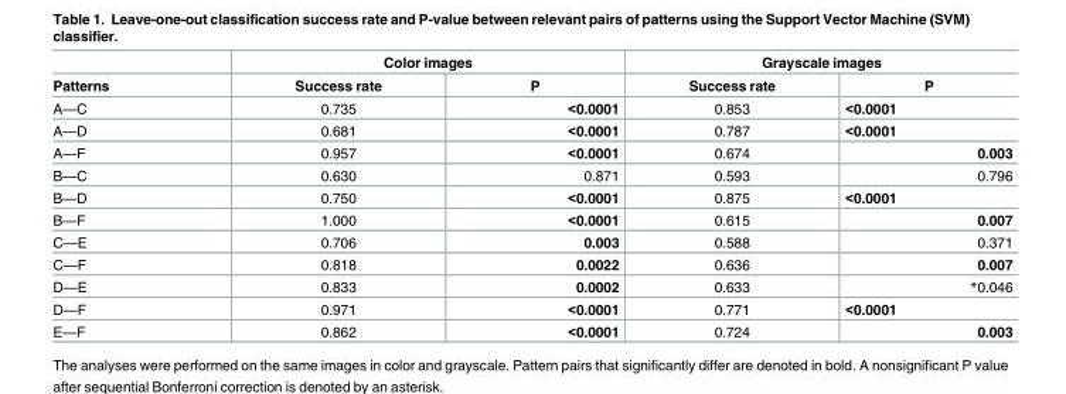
<table><thead><tr><td rowspan="2">Patterns</td><td colspan="2">Color images</td><td colspan="2">Grayscale images</td></tr><tr><td>Success rate</td><td>P</td><td>Success rate</td><td>P</td></tr></thead><tbody><tr><td>A—C</td><td>0.735</td><td>&lt;0.0001</td><td>0.853</td><td>&lt;0.0001</td></tr><tr><td>A—D</td><td>0.681</td><td>&lt;0.0001</td><td>0.787</td><td>&lt;0.0001</td></tr><tr><td>A—F</td><td>0.957</td><td>&lt;0.0001</td><td>0.674</td><td>0.003</td></tr><tr><td>B—C</td><td>0.630</td><td>0.871</td><td>0.593</td><td>0.796</td></tr><tr><td>B—D</td><td>0.750</td><td>&lt;0.0001</td><td>0.875</td><td>&lt;0.0001</td></tr><tr><td>B—F</td><td>1.000</td><td>&lt;0.0001</td><td>0.615</td><td>0.007</td></tr><tr><td>C—E</td><td>0.706</td><td>0.003</td><td>0.588</td><td>0.371</td></tr><tr><td>C—F</td><td>0.818</td><td>0.0022</td><td>0.636</td><td>0.007</td></tr><tr><td>D—E</td><td>0.833</td><td>0.0002</td><td>0.633</td><td>*0.046</td></tr><tr><td>D—F</td><td>0.971</td><td>&lt;0.0001</td><td>0.771</td><td>&lt;0.0001</td></tr><tr><td>E—F</td><td>0.862</td><td>&lt;0.0001</td><td>0.724</td><td>0.003</td></tr></tbody></table>